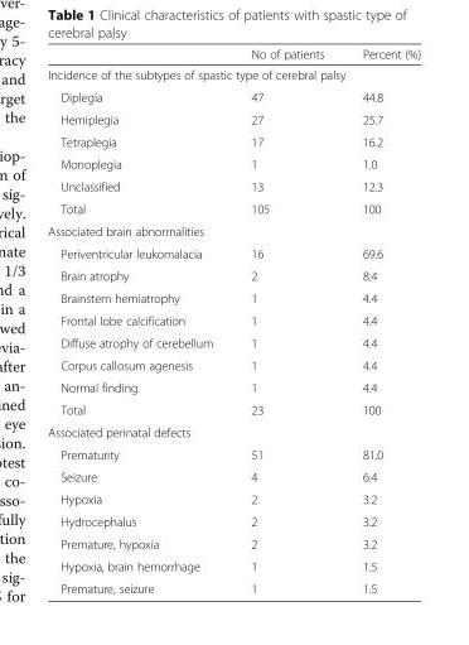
<table><thead><tr><td></td><td>No of patients</td><td>Percent (%)</td></tr></thead><tbody><tr><td colspan="3">Incidence of the subtypes of spastic type of cerebral palsy</td></tr><tr><td>Diplegia</td><td>47</td><td>44.8</td></tr><tr><td>Hemiplegia</td><td>27</td><td>25.7</td></tr><tr><td>Tetraplegia</td><td>17</td><td>16.2</td></tr><tr><td>Monoplegia</td><td>1</td><td>1.0</td></tr><tr><td>Unclassified</td><td>13</td><td>12.3</td></tr><tr><td>Total</td><td>105</td><td>100</td></tr><tr><td colspan="3">Associated brain abnormalities</td></tr><tr><td>Periventricular leukomalacia</td><td>16</td><td>69.6</td></tr><tr><td>Brain atrophy</td><td>2</td><td>8.4</td></tr><tr><td>Brainstem hemiatrophy</td><td>1</td><td>4.4</td></tr><tr><td>Frontal lobe calcification</td><td>1</td><td>4.4</td></tr><tr><td>Diffuse atrophy of cerebellum</td><td>1</td><td>4.4</td></tr><tr><td>Corpus callosum agenesis</td><td>1</td><td>4.4</td></tr><tr><td>Normal finding</td><td>1</td><td>4.4</td></tr><tr><td>Total</td><td>23</td><td>100</td></tr><tr><td colspan="3">Associated perinatal defects</td></tr><tr><td>Prematurity</td><td>51</td><td>81.0</td></tr><tr><td>Seizure</td><td>4</td><td>6.4</td></tr><tr><td>Hypoxia</td><td>2</td><td>3.2</td></tr><tr><td>Hydrocephalus</td><td>2</td><td>3.2</td></tr><tr><td>Premature, hypoxia</td><td>2</td><td>3.2</td></tr><tr><td>Hypoxia, brain hemorrhage</td><td>1</td><td>1.5</td></tr><tr><td>Premature, seizure</td><td>1</td><td>1.5</td></tr></tbody></table>